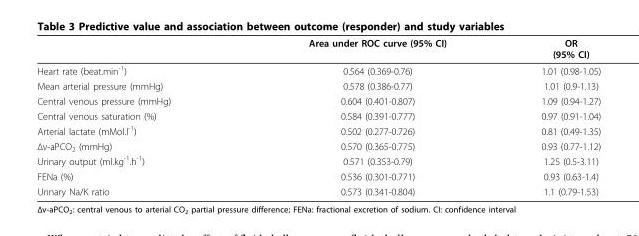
<table><thead><tr><td></td><td>Area under ROC curve (95% CI)</td><td>OR (95% CI)</td></tr></thead><tbody><tr><td>Heart rate (beat.min<sup>-1</sup>)</td><td>0.564 (0.369-0.76)</td><td>1.01 (0.98-1.05)</td></tr><tr><td>Mean arterial pressure (mmHg)</td><td>0.578 (0.386-0.77)</td><td>1.01 (0.9-1.13)</td></tr><tr><td>Central venous pressure (mmHg)</td><td>0.604 (0.401-0.807)</td><td>1.09 (0.94-1.27)</td></tr><tr><td>Central venous saturation (%)</td><td>0.584 (0.391-0.777)</td><td>0.97 (0.91-1.04)</td></tr><tr><td>Arterial lactate (mMol.l<sup>-1</sup>)</td><td>0.502 (0.277-0.726)</td><td>0.81 (0.49-1.35)</td></tr><tr><td>Δv-aPCO<sub>2</sub> (mmHg)</td><td>0.570 (0.365-0.775)</td><td>0.93 (0.77-1.12)</td></tr><tr><td>Urinary output (ml.kg<sup>-1</sup>.h<sup>-1</sup>)</td><td>0.571 (0.353-0.79)</td><td>1.25 (0.5-3.11)</td></tr><tr><td>FENa (%)</td><td>0.536 (0.301-0.771)</td><td>0.93 (0.63-1.4)</td></tr><tr><td>Urinary Na/K ratio</td><td>0.573 (0.341-0.804)</td><td>1.1 (0.79-1.53)</td></tr></tbody></table>